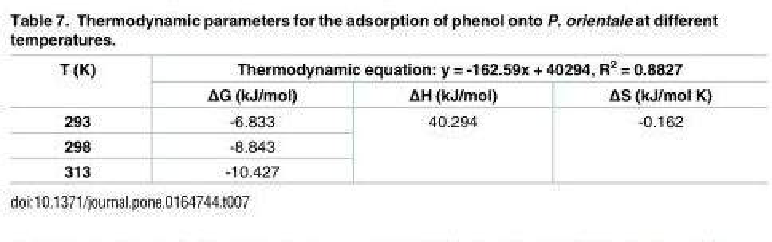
<table><thead><tr><td rowspan="2">T (K)</td><td colspan="3">Thermodynamic equation: y = -162.59x + 40294, R<sup>2</sup> = 0.8827</td></tr><tr><td>ΔG (kJ/mol)</td><td>ΔH (kJ/mol)</td><td>ΔS (kJ/mol K)</td></tr></thead><tbody><tr><td>293</td><td>-6.833</td><td rowspan="3">40.294</td><td rowspan="3">-0.162</td></tr><tr><td>298</td><td>-8.843</td></tr><tr><td>313</td><td>-10.427</td></tr></tbody></table>